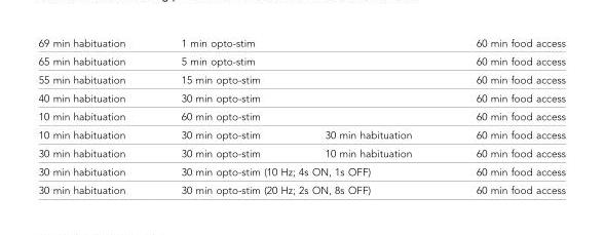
<table><tbody><tr><td>69 min habituation</td><td colspan="2">1 min opto-stim</td><td>60 min food access</td></tr><tr><td>65 min habituation</td><td colspan="2">5 min opto-stim</td><td>60 min food access</td></tr><tr><td>55 min habituation</td><td colspan="2">15 min opto-stim</td><td>60 min food access</td></tr><tr><td>40 min habituation</td><td colspan="2">30 min opto-stim</td><td>60 min food access</td></tr><tr><td>10 min habituation</td><td colspan="2">60 min opto-stim</td><td>60 min food access</td></tr><tr><td>10 min habituation</td><td>30 min opto-stim</td><td>30 min habituation</td><td>60 min food access</td></tr><tr><td>30 min habituation</td><td>30 min opto-stim</td><td>10 min habituation</td><td>60 min food access</td></tr><tr><td>30 min habituation</td><td colspan="2">30 min opto-stim (10 Hz; 4s ON, 1s OFF)</td><td>60 min food access</td></tr><tr><td>30 min habituation</td><td colspan="2">30 min opto-stim (20 Hz; 2s ON, 8s OFF)</td><td>60 min food access</td></tr></tbody></table>